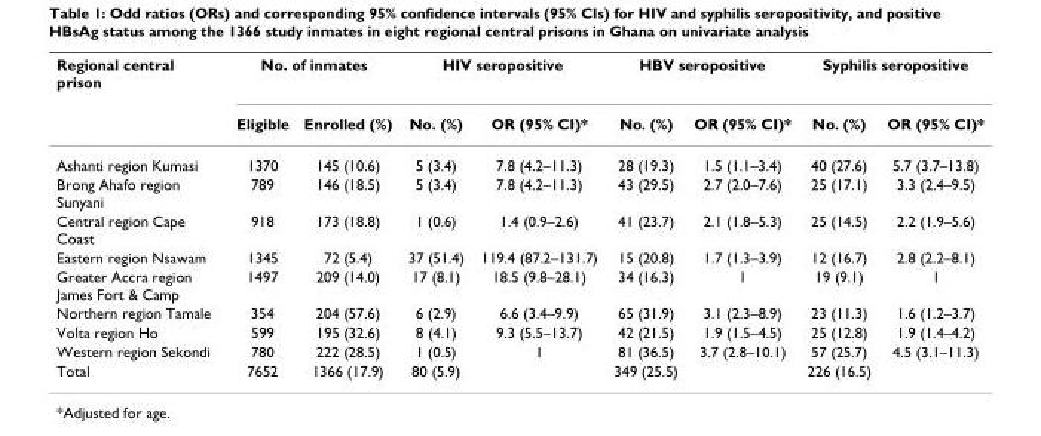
<table><thead><tr><td rowspan="2">Regional central prison</td><td colspan="2">No. of inmates</td><td colspan="2">HIV seropositive</td><td colspan="2">HBV seropositive</td><td colspan="2">Syphilis seropositive</td></tr><tr><td>Eligible</td><td>Enrolled (%)</td><td>No. (%)</td><td>OR (95% CI)*</td><td>No. (%)</td><td>OR (95% CI)*</td><td>No. (%)</td><td>OR (95% CI)*</td></tr></thead><tbody><tr><td>Ashanti region Kumasi</td><td>1370</td><td>145 (10.6)</td><td>5 (3.4)</td><td>7.8 (4.2–11.3)</td><td>28 (19.3)</td><td>1.5 (1.1–3.4)</td><td>40 (27.6)</td><td>5.7 (3.7–13.8)</td></tr><tr><td>Brong Ahafo region Sunyani</td><td>789</td><td>146 (18.5)</td><td>5 (3.4)</td><td>7.8 (4.2–11.3)</td><td>43 (29.5)</td><td>2.7 (2.0–7.6)</td><td>25 (17.1)</td><td>3.3 (2.4–9.5)</td></tr><tr><td>Central region Cape Coast</td><td>918</td><td>173 (18.8)</td><td>1 (0.6)</td><td>1.4 (0.9–2.6)</td><td>41 (23.7)</td><td>2.1 (1.8–5.3)</td><td>25 (14.5)</td><td>2.2 (1.9–5.6)</td></tr><tr><td>Eastern region Nsawam</td><td>1345</td><td>72 (5.4)</td><td>37 (51.4)</td><td>119.4 (87.2–131.7)</td><td>15 (20.8)</td><td>1.7 (1.3–3.9)</td><td>12 (16.7)</td><td>2.8 (2.2–8.1)</td></tr><tr><td>Greater Accra region James Fort &amp; Camp</td><td>1497</td><td>209 (14.0)</td><td>17 (8.1)</td><td>18.5 (9.8–28.1)</td><td>34 (16.3)</td><td>1</td><td>19 (9.1)</td><td>1</td></tr><tr><td>Northern region Tamale</td><td>354</td><td>204 (57.6)</td><td>6 (2.9)</td><td>6.6 (3.4–9.9)</td><td>65 (31.9)</td><td>3.1 (2.3–8.9)</td><td>23 (11.3)</td><td>1.6 (1.2–3.7)</td></tr><tr><td>Volta region Ho</td><td>599</td><td>195 (32.6)</td><td>8 (4.1)</td><td>9.3 (5.5–13.7)</td><td>42 (21.5)</td><td>1.9 (1.5–4.5)</td><td>25 (12.8)</td><td>1.9 (1.4–4.2)</td></tr><tr><td>Western region Sekondi</td><td>780</td><td>222 (28.5)</td><td>1 (0.5)</td><td>1</td><td>81 (36.5)</td><td>3.7 (2.8–10.1)</td><td>57 (25.7)</td><td>4.5 (3.1–11.3)</td></tr><tr><td>Total</td><td>7652</td><td>1366 (17.9)</td><td>80 (5.9)</td><td></td><td>349 (25.5)</td><td></td><td>226 (16.5)</td><td></td></tr></tbody></table>